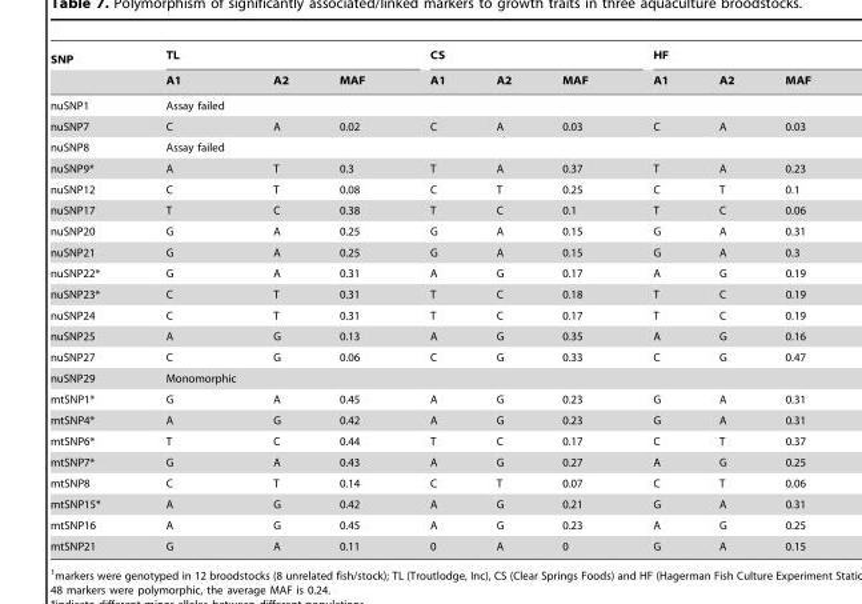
<table><thead><tr><td rowspan="2">SNP</td><td colspan="3">TL</td><td colspan="3">CS</td><td colspan="3">HF</td></tr><tr><td>A1</td><td>A2</td><td>MAF</td><td>A1</td><td>A2</td><td>MAF</td><td>A1</td><td>A2</td><td>MAF</td></tr></thead><tbody><tr><td>nuSNP1</td><td colspan="9">Assay failed</td></tr><tr><td>nuSNP7</td><td>C</td><td>A</td><td>0.02</td><td>C</td><td>A</td><td>0.03</td><td>C</td><td>A</td><td>0.03</td></tr><tr><td>nuSNP8</td><td colspan="9">Assay failed</td></tr><tr><td>nuSNP9*</td><td>A</td><td>T</td><td>0.3</td><td>T</td><td>A</td><td>0.37</td><td>T</td><td>A</td><td>0.23</td></tr><tr><td>nuSNP12</td><td>C</td><td>T</td><td>0.08</td><td>C</td><td>T</td><td>0.25</td><td>C</td><td>T</td><td>0.1</td></tr><tr><td>nuSNP17</td><td>T</td><td>C</td><td>0.38</td><td>T</td><td>C</td><td>0.1</td><td>T</td><td>C</td><td>0.06</td></tr><tr><td>nuSNP20</td><td>G</td><td>A</td><td>0.25</td><td>G</td><td>A</td><td>0.15</td><td>G</td><td>A</td><td>0.31</td></tr><tr><td>nuSNP21</td><td>G</td><td>A</td><td>0.25</td><td>G</td><td>A</td><td>0.15</td><td>G</td><td>A</td><td>0.3</td></tr><tr><td>nuSNP22*</td><td>G</td><td>A</td><td>0.31</td><td>A</td><td>G</td><td>0.17</td><td>A</td><td>G</td><td>0.19</td></tr><tr><td>nuSNP23*</td><td>C</td><td>T</td><td>0.31</td><td>T</td><td>C</td><td>0.18</td><td>T</td><td>C</td><td>0.19</td></tr><tr><td>nuSNP24</td><td>C</td><td>T</td><td>0.31</td><td>T</td><td>C</td><td>0.17</td><td>T</td><td>C</td><td>0.19</td></tr><tr><td>nuSNP25</td><td>A</td><td>G</td><td>0.13</td><td>A</td><td>G</td><td>0.35</td><td>A</td><td>G</td><td>0.16</td></tr><tr><td>nuSNP27</td><td>C</td><td>G</td><td>0.06</td><td>C</td><td>G</td><td>0.33</td><td>C</td><td>G</td><td>0.47</td></tr><tr><td>nuSNP29</td><td colspan="9">Monomorphic</td></tr><tr><td>mtSNP1*</td><td>G</td><td>A</td><td>0.45</td><td>A</td><td>G</td><td>0.23</td><td>G</td><td>A</td><td>0.31</td></tr><tr><td>mtSNP4*</td><td>A</td><td>G</td><td>0.42</td><td>A</td><td>G</td><td>0.23</td><td>G</td><td>A</td><td>0.31</td></tr><tr><td>mtSNP6*</td><td>T</td><td>C</td><td>0.44</td><td>T</td><td>C</td><td>0.17</td><td>C</td><td>T</td><td>0.37</td></tr><tr><td>mtSNP7*</td><td>G</td><td>A</td><td>0.43</td><td>A</td><td>G</td><td>0.27</td><td>A</td><td>G</td><td>0.25</td></tr><tr><td>mtSNP8</td><td>C</td><td>T</td><td>0.14</td><td>C</td><td>T</td><td>0.07</td><td>C</td><td>T</td><td>0.06</td></tr><tr><td>mtSNP15*</td><td>A</td><td>G</td><td>0.42</td><td>A</td><td>G</td><td>0.21</td><td>G</td><td>A</td><td>0.31</td></tr><tr><td>mtSNP16</td><td>A</td><td>G</td><td>0.45</td><td>A</td><td>G</td><td>0.23</td><td>A</td><td>G</td><td>0.25</td></tr><tr><td>mtSNP21</td><td>G</td><td>A</td><td>0.11</td><td>0</td><td>A</td><td>0</td><td>G</td><td>A</td><td>0.15</td></tr></tbody></table>